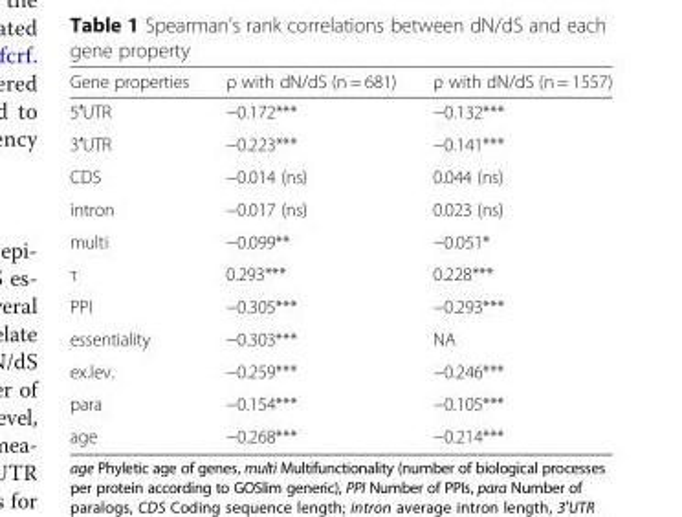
<table><thead><tr><td>Gene properties</td><td>ρ with dN/dS (n = 681)</td><td>ρ with dN/dS (n = 1557)</td></tr></thead><tbody><tr><td>5′UTR</td><td>−0.172***</td><td>−0.132***</td></tr><tr><td>3′UTR</td><td>−0.223***</td><td>−0.141***</td></tr><tr><td>CDS</td><td>−0.014 (ns)</td><td>0.044 (ns)</td></tr><tr><td>intron</td><td>−0.017 (ns)</td><td>0.023 (ns)</td></tr><tr><td>multi</td><td>−0.099**</td><td>−0.051*</td></tr><tr><td>τ</td><td>0.293***</td><td>0.228***</td></tr><tr><td>PPI</td><td>−0.305***</td><td>−0.293***</td></tr><tr><td>essentiality</td><td>−0.303***</td><td>NA</td></tr><tr><td>ex.lev.</td><td>−0.259***</td><td>−0.246***</td></tr><tr><td>para</td><td>−0.154***</td><td>−0.105***</td></tr><tr><td>age</td><td>−0.268***</td><td>−0.214***</td></tr></tbody></table>